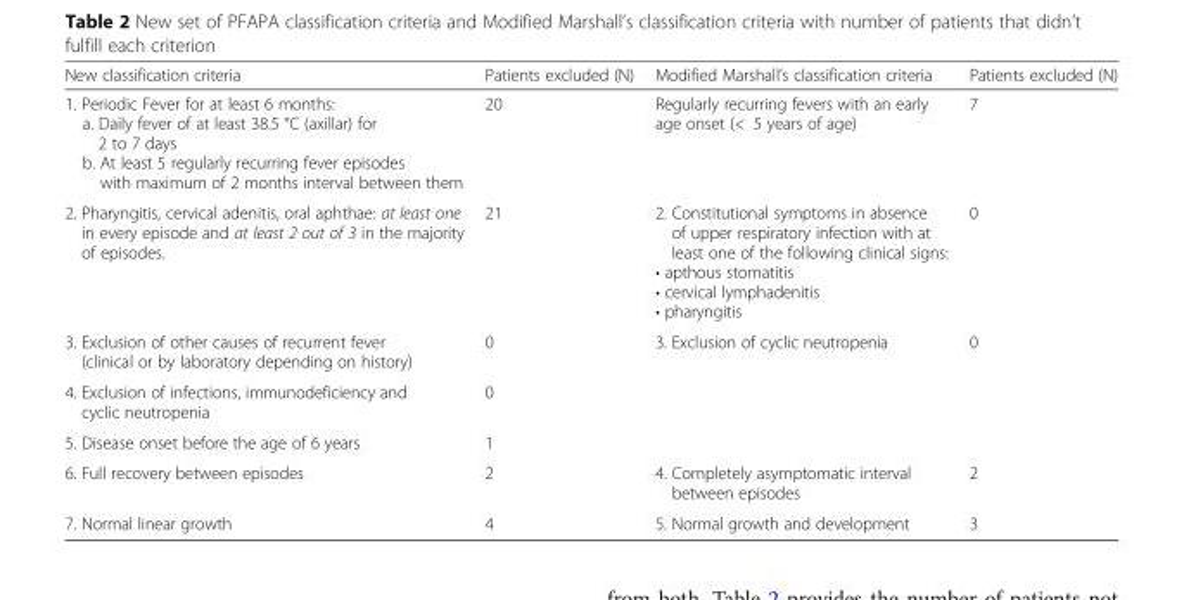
<table><thead><tr><td>New classification criteria</td><td>Patients excluded (N)</td><td>Modified Marshall’s classification criteria</td><td>Patients excluded (N)</td></tr></thead><tbody><tr><td>1. Periodic Fever for at least 6 months: a. Daily fever of at least 38.5 °C (axillar) for 2 to 7 days b. At least 5 regularly recurring fever episodes with maximum of 2 months interval between them</td><td>20</td><td>Regularly recurring fevers with an early age onset (&lt; 5 years of age)</td><td>7</td></tr><tr><td>2. Pharyngitis, cervical adenitis, oral aphthae: at least one in every episode and at least 2 out of 3 in the majority of episodes.</td><td>21</td><td>2. Constitutional symptoms in absence of upper respiratory infection with at least one of the following clinical signs: • apthous stomatitis • cervical lymphadenitis • pharyngitis</td><td>0</td></tr><tr><td>3. Exclusion of other causes of recurrent fever (clinical or by laboratory depending on history)</td><td>0</td><td>3. Exclusion of cyclic neutropenia</td><td>0</td></tr><tr><td>4. Exclusion of infections, immunodeficiency and cyclic neutropenia</td><td>0</td><td></td><td></td></tr><tr><td>5. Disease onset before the age of 6 years</td><td>1</td><td></td><td></td></tr><tr><td>6. Full recovery between episodes</td><td>2</td><td>4. Completely asymptomatic interval between episodes</td><td>2</td></tr><tr><td>7. Normal linear growth</td><td>4</td><td>5. Normal growth and development</td><td>3</td></tr></tbody></table>